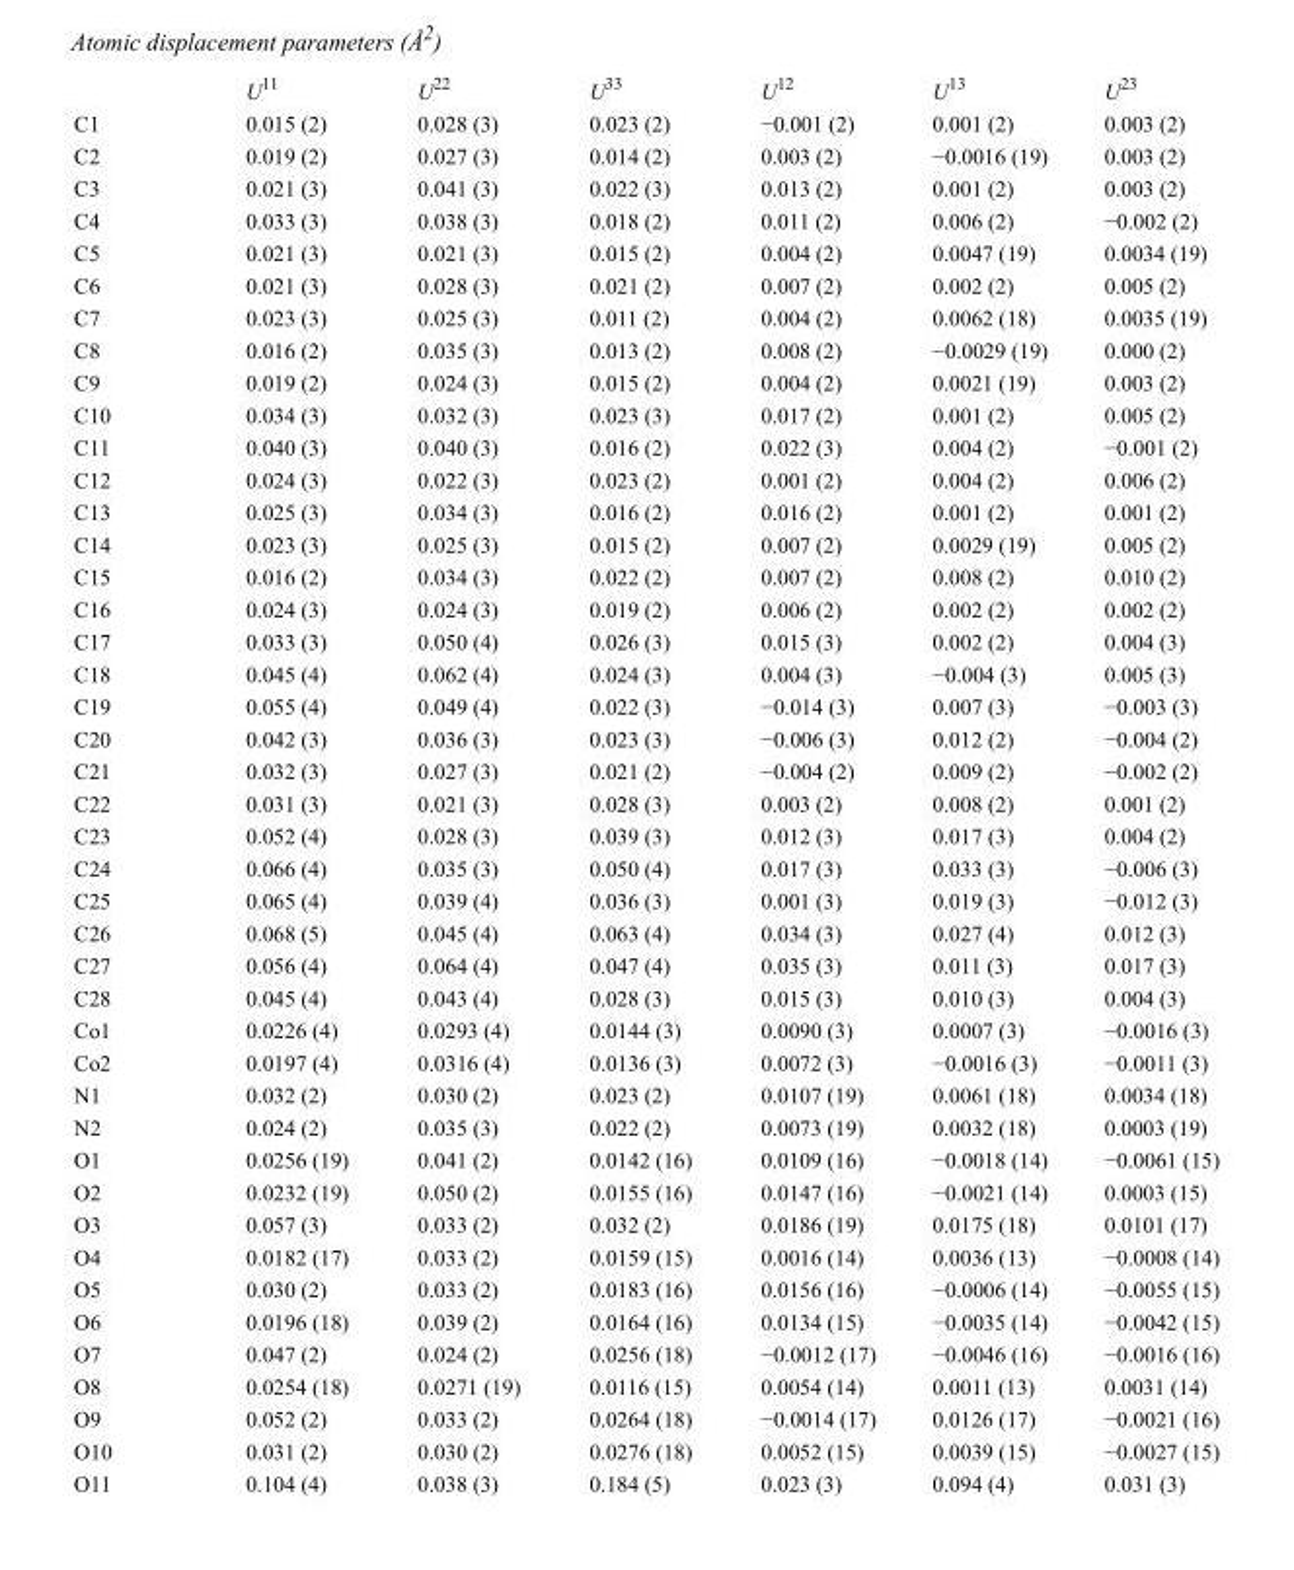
<table><thead><tr><td></td><td>U<sup>11</sup></td><td>U<sup>22</sup></td><td>U<sup>33</sup></td><td>U<sup>12</sup></td><td>U<sup>13</sup></td><td>U<sup>23</sup></td></tr></thead><tbody><tr><td>C1</td><td>0.015 (2)</td><td>0.028 (3)</td><td>0.023 (2)</td><td>−0.001 (2)</td><td>0.001 (2)</td><td>0.003 (2)</td></tr><tr><td>C2</td><td>0.019 (2)</td><td>0.027 (3)</td><td>0.014 (2)</td><td>0.003 (2)</td><td>−0.0016 (19)</td><td>0.003 (2)</td></tr><tr><td>C3</td><td>0.021 (3)</td><td>0.041 (3)</td><td>0.022 (3)</td><td>0.013 (2)</td><td>0.001 (2)</td><td>0.003 (2)</td></tr><tr><td>C4</td><td>0.033 (3)</td><td>0.038 (3)</td><td>0.018 (2)</td><td>0.011 (2)</td><td>0.006 (2)</td><td>−0.002 (2)</td></tr><tr><td>C5</td><td>0.021 (3)</td><td>0.021 (3)</td><td>0.015 (2)</td><td>0.004 (2)</td><td>0.0047 (19)</td><td>0.0034 (19)</td></tr><tr><td>C6</td><td>0.021 (3)</td><td>0.028 (3)</td><td>0.021 (2)</td><td>0.007 (2)</td><td>0.002 (2)</td><td>0.005 (2)</td></tr><tr><td>C7</td><td>0.023 (3)</td><td>0.025 (3)</td><td>0.011 (2)</td><td>0.004 (2)</td><td>0.0062 (18)</td><td>0.0035 (19)</td></tr><tr><td>C8</td><td>0.016 (2)</td><td>0.035 (3)</td><td>0.013 (2)</td><td>0.008 (2)</td><td>−0.0029 (19)</td><td>0.000 (2)</td></tr><tr><td>C9</td><td>0.019 (2)</td><td>0.024 (3)</td><td>0.015 (2)</td><td>0.004 (2)</td><td>0.0021 (19)</td><td>0.003 (2)</td></tr><tr><td>C10</td><td>0.034 (3)</td><td>0.032 (3)</td><td>0.023 (3)</td><td>0.017 (2)</td><td>0.001 (2)</td><td>0.005 (2)</td></tr><tr><td>C11</td><td>0.040 (3)</td><td>0.040 (3)</td><td>0.016 (2)</td><td>0.022 (3)</td><td>0.004 (2)</td><td>−0.001 (2)</td></tr><tr><td>C12</td><td>0.024 (3)</td><td>0.022 (3)</td><td>0.023 (2)</td><td>0.001 (2)</td><td>0.004 (2)</td><td>0.006 (2)</td></tr><tr><td>C13</td><td>0.025 (3)</td><td>0.034 (3)</td><td>0.016 (2)</td><td>0.016 (2)</td><td>0.001 (2)</td><td>0.001 (2)</td></tr><tr><td>C14</td><td>0.023 (3)</td><td>0.025 (3)</td><td>0.015 (2)</td><td>0.007 (2)</td><td>0.0029 (19)</td><td>0.005 (2)</td></tr><tr><td>C15</td><td>0.016 (2)</td><td>0.034 (3)</td><td>0.022 (2)</td><td>0.007 (2)</td><td>0.008 (2)</td><td>0.010 (2)</td></tr><tr><td>C16</td><td>0.024 (3)</td><td>0.024 (3)</td><td>0.019 (2)</td><td>0.006 (2)</td><td>0.002 (2)</td><td>0.002 (2)</td></tr><tr><td>C17</td><td>0.033 (3)</td><td>0.050 (4)</td><td>0.026 (3)</td><td>0.015 (3)</td><td>0.002 (2)</td><td>0.004 (3)</td></tr><tr><td>C18</td><td>0.045 (4)</td><td>0.062 (4)</td><td>0.024 (3)</td><td>0.004 (3)</td><td>−0.004 (3)</td><td>0.005 (3)</td></tr><tr><td>C19</td><td>0.055 (4)</td><td>0.049 (4)</td><td>0.022 (3)</td><td>−0.014 (3)</td><td>0.007 (3)</td><td>−0.003 (3)</td></tr><tr><td>C20</td><td>0.042 (3)</td><td>0.036 (3)</td><td>0.023 (3)</td><td>−0.006 (3)</td><td>0.012 (2)</td><td>−0.004 (2)</td></tr><tr><td>C21</td><td>0.032 (3)</td><td>0.027 (3)</td><td>0.021 (2)</td><td>−0.004 (2)</td><td>0.009 (2)</td><td>−0.002 (2)</td></tr><tr><td>C22</td><td>0.031 (3)</td><td>0.021 (3)</td><td>0.028 (3)</td><td>0.003 (2)</td><td>0.008 (2)</td><td>0.001 (2)</td></tr><tr><td>C23</td><td>0.052 (4)</td><td>0.028 (3)</td><td>0.039 (3)</td><td>0.012 (3)</td><td>0.017 (3)</td><td>0.004 (2)</td></tr><tr><td>C24</td><td>0.066 (4)</td><td>0.035 (3)</td><td>0.050 (4)</td><td>0.017 (3)</td><td>0.033 (3)</td><td>−0.006 (3)</td></tr><tr><td>C25</td><td>0.065 (4)</td><td>0.039 (4)</td><td>0.036 (3)</td><td>0.001 (3)</td><td>0.019 (3)</td><td>−0.012 (3)</td></tr><tr><td>C26</td><td>0.068 (5)</td><td>0.045 (4)</td><td>0.063 (4)</td><td>0.034 (3)</td><td>0.027 (4)</td><td>0.012 (3)</td></tr><tr><td>C27</td><td>0.056 (4)</td><td>0.064 (4)</td><td>0.047 (4)</td><td>0.035 (3)</td><td>0.011 (3)</td><td>0.017 (3)</td></tr><tr><td>C28</td><td>0.045 (4)</td><td>0.043 (4)</td><td>0.028 (3)</td><td>0.015 (3)</td><td>0.010 (3)</td><td>0.004 (3)</td></tr><tr><td>Co1</td><td>0.0226 (4)</td><td>0.0293 (4)</td><td>0.0144 (3)</td><td>0.0090 (3)</td><td>0.0007 (3)</td><td>−0.0016 (3)</td></tr><tr><td>Co2</td><td>0.0197 (4)</td><td>0.0316 (4)</td><td>0.0136 (3)</td><td>0.0072 (3)</td><td>−0.0016 (3)</td><td>−0.0011 (3)</td></tr><tr><td>N1</td><td>0.032 (2)</td><td>0.030 (2)</td><td>0.023 (2)</td><td>0.0107 (19)</td><td>0.0061 (18)</td><td>0.0034 (18)</td></tr><tr><td>N2</td><td>0.024 (2)</td><td>0.035 (3)</td><td>0.022 (2)</td><td>0.0073 (19)</td><td>0.0032 (18)</td><td>0.0003 (19)</td></tr><tr><td>O1</td><td>0.0256 (19)</td><td>0.041 (2)</td><td>0.0142 (16)</td><td>0.0109 (16)</td><td>−0.0018 (14)</td><td>−0.0061 (15)</td></tr><tr><td>O2</td><td>0.0232 (19)</td><td>0.050 (2)</td><td>0.0155 (16)</td><td>0.0147 (16)</td><td>−0.0021 (14)</td><td>0.0003 (15)</td></tr><tr><td>O3</td><td>0.057 (3)</td><td>0.033 (2)</td><td>0.032 (2)</td><td>0.0186 (19)</td><td>0.0175 (18)</td><td>0.0101 (17)</td></tr><tr><td>O4</td><td>0.0182 (17)</td><td>0.033 (2)</td><td>0.0159 (15)</td><td>0.0016 (14)</td><td>0.0036 (13)</td><td>−0.0008 (14)</td></tr><tr><td>O5</td><td>0.030 (2)</td><td>0.033 (2)</td><td>0.0183 (16)</td><td>0.0156 (16)</td><td>−0.0006 (14)</td><td>−0.0055 (15)</td></tr><tr><td>O6</td><td>0.0196 (18)</td><td>0.039 (2)</td><td>0.0164 (16)</td><td>0.0134 (15)</td><td>−0.0035 (14)</td><td>−0.0042 (15)</td></tr><tr><td>O7</td><td>0.047 (2)</td><td>0.024 (2)</td><td>0.0256 (18)</td><td>−0.0012 (17)</td><td>−0.0046 (16)</td><td>−0.0016 (16)</td></tr><tr><td>O8</td><td>0.0254 (18)</td><td>0.0271 (19)</td><td>0.0116 (15)</td><td>0.0054 (14)</td><td>0.0011 (13)</td><td>0.0031 (14)</td></tr><tr><td>O9</td><td>0.052 (2)</td><td>0.033 (2)</td><td>0.0264 (18)</td><td>−0.0014 (17)</td><td>0.0126 (17)</td><td>−0.0021 (16)</td></tr><tr><td>O10</td><td>0.031 (2)</td><td>0.030 (2)</td><td>0.0276 (18)</td><td>0.0052 (15)</td><td>0.0039 (15)</td><td>−0.0027 (15)</td></tr><tr><td>O11</td><td>0.104 (4)</td><td>0.038 (3)</td><td>0.184 (5)</td><td>0.023 (3)</td><td>0.094 (4)</td><td>0.031 (3)</td></tr></tbody></table>